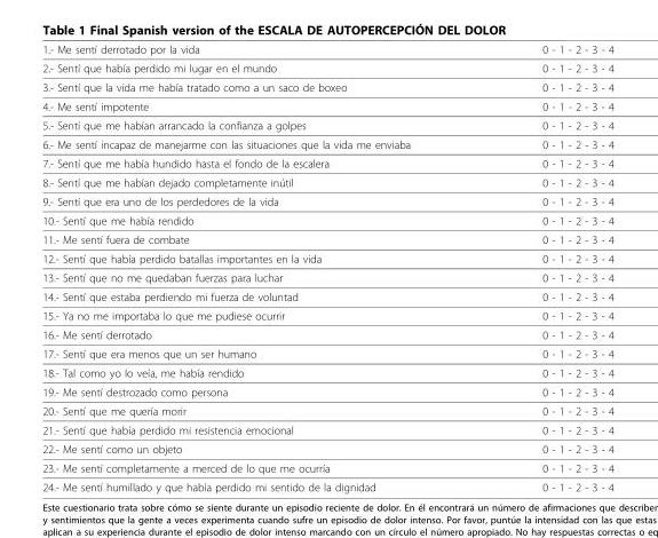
<table><thead><tr><td>1.- Me sentí derrotado por la vida</td><td>0 - 1 - 2 - 3 - 4</td></tr></thead><tbody><tr><td>2.- Sentí que había perdido mi lugar en el mundo</td><td>0 - 1 - 2 - 3 - 4</td></tr><tr><td>3.- Sentí que la vida me había tratado como a un saco de boxeo</td><td>0 - 1 - 2 - 3 - 4</td></tr><tr><td>4.- Me sentí impotente</td><td>0 - 1 - 2 - 3 - 4</td></tr><tr><td>5.- Sentí que me habían arrancado la confianza a golpes</td><td>0 - 1 - 2 - 3 - 4</td></tr><tr><td>6.- Me sentí incapaz de manejarme con las situaciones que la vida me enviaba</td><td>0 - 1 - 2 - 3 - 4</td></tr><tr><td>7.- Sentí que me había hundido hasta el fondo de la escalera</td><td>0 - 1 - 2 - 3 - 4</td></tr><tr><td>8.- Sentí que me habían dejado completamente inútil</td><td>0 - 1 - 2 - 3 - 4</td></tr><tr><td>9.- Sentí que era uno de los perdedores de la vida</td><td>0 - 1 - 2 - 3 - 4</td></tr><tr><td>10.- Sentí que me había rendido</td><td>0 - 1 - 2 - 3 - 4</td></tr><tr><td>11.- Me sentí fuera de combate</td><td>0 - 1 - 2 - 3 - 4</td></tr><tr><td>12.- Sentí que había perdido batallas importantes en la vida</td><td>0 - 1 - 2 - 3 - 4</td></tr><tr><td>13.- Sentí que no me quedaban fuerzas para luchar</td><td>0 - 1 - 2 - 3 - 4</td></tr><tr><td>14.- Sentí que estaba perdiendo mi fuerza de voluntad</td><td>0 - 1 - 2 - 3 - 4</td></tr><tr><td>15.- Ya no me importaba lo que me pudiese ocurrir</td><td>0 - 1 - 2 - 3 - 4</td></tr><tr><td>16.- Me sentí derrotado</td><td>0 - 1 - 2 - 3 - 4</td></tr><tr><td>17.- Sentí que era menos que un ser humano</td><td>0 - 1 - 2 - 3 - 4</td></tr><tr><td>18.- Tal como yo lo veía, me había rendido</td><td>0 - 1 - 2 - 3 - 4</td></tr><tr><td>19.- Me sentí destrozado como persona</td><td>0 - 1 - 2 - 3 - 4</td></tr><tr><td>20.- Sentí que me quería morir</td><td>0 - 1 - 2 - 3 - 4</td></tr><tr><td>21.- Sentí que había perdido mi resistencia emocional</td><td>0 - 1 - 2 - 3 - 4</td></tr><tr><td>22.- Me sentí como un objeto</td><td>0 - 1 - 2 - 3 - 4</td></tr><tr><td>23.- Me sentí completamente a merced de lo que me ocurría</td><td>0 - 1 - 2 - 3 - 4</td></tr><tr><td>24.- Me sentí humillado y que había perdido mi sentido de la dignidad</td><td>0 - 1 - 2 - 3 - 4</td></tr></tbody></table>